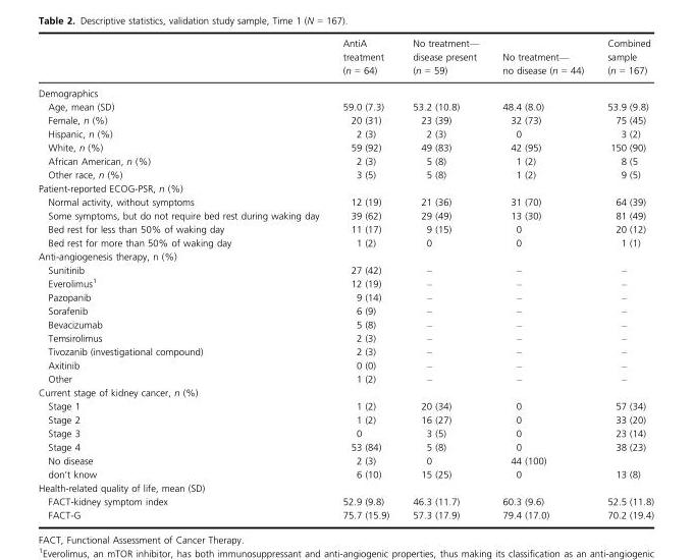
<table><thead><tr><td></td><td>AntiA treatment (n = 64)</td><td>No treatment— disease present (n = 59)</td><td>No treatment— no disease (n = 44)</td><td>Combined sample (n = 167)</td></tr></thead><tbody><tr><td colspan="5">Demographics</td></tr><tr><td>Age, mean (SD)</td><td>59.0 (7.3)</td><td>53.2 (10.8)</td><td>48.4 (8.0)</td><td>53.9 (9.8)</td></tr><tr><td>Female, n (%)</td><td>20 (31)</td><td>23 (39)</td><td>32 (73)</td><td>75 (45)</td></tr><tr><td>Hispanic, n (%)</td><td>2 (3)</td><td>2 (3)</td><td>0</td><td>3 (2)</td></tr><tr><td>White, n (%)</td><td>59 (92)</td><td>49 (83)</td><td>42 (95)</td><td>150 (90)</td></tr><tr><td>African American, n (%)</td><td>2 (3)</td><td>5 (8)</td><td>1 (2)</td><td>8 (5</td></tr><tr><td>Other race, n (%)</td><td>3 (5)</td><td>5 (8)</td><td>1 (2)</td><td>9 (5)</td></tr><tr><td colspan="5">Patient-reported ECOG-PSR, n (%)</td></tr><tr><td>Normal activity, without symptoms</td><td>12 (19)</td><td>21 (36)</td><td>31 (70)</td><td>64 (39)</td></tr><tr><td>Some symptoms, but do not require bed rest during waking day</td><td>39 (62)</td><td>29 (49)</td><td>13 (30)</td><td>81 (49)</td></tr><tr><td>Bed rest for less than 50% of waking day</td><td>11 (17)</td><td>9 (15)</td><td>0</td><td>20 (12)</td></tr><tr><td>Bed rest for more than 50% of waking day</td><td>1 (2)</td><td>0</td><td>0</td><td>1 (1)</td></tr><tr><td colspan="5">Anti-angiogenesis therapy, n (%)</td></tr><tr><td>Sunitinib</td><td>27 (42)</td><td>–</td><td>–</td><td>–</td></tr><tr><td>Everolimus<sup>1</sup></td><td>12 (19)</td><td>–</td><td>–</td><td>–</td></tr><tr><td>Pazopanib</td><td>9 (14)</td><td>–</td><td>–</td><td>–</td></tr><tr><td>Sorafenib</td><td>6 (9)</td><td>–</td><td>–</td><td>–</td></tr><tr><td>Bevacizumab</td><td>5 (8)</td><td>–</td><td>–</td><td>–</td></tr><tr><td>Temsirolimus</td><td>2 (3)</td><td>–</td><td>–</td><td>–</td></tr><tr><td>Tivozanib (investigational compound)</td><td>2 (3)</td><td>–</td><td>–</td><td>–</td></tr><tr><td>Axitinib</td><td>0 (0)</td><td>–</td><td>–</td><td>–</td></tr><tr><td>Other</td><td>1 (2)</td><td>–</td><td>–</td><td>–</td></tr><tr><td colspan="5">Current stage of kidney cancer, n (%)</td></tr><tr><td>Stage 1</td><td>1 (2)</td><td>20 (34)</td><td>0</td><td>57 (34)</td></tr><tr><td>Stage 2</td><td>1 (2)</td><td>16 (27)</td><td>0</td><td>33 (20)</td></tr><tr><td>Stage 3</td><td>0</td><td>3 (5)</td><td>0</td><td>23 (14)</td></tr><tr><td>Stage 4</td><td>53 (84)</td><td>5 (8)</td><td>0</td><td>38 (23)</td></tr><tr><td>No disease</td><td>2 (3)</td><td>0</td><td>44 (100)</td><td></td></tr><tr><td>don’t know</td><td>6 (10)</td><td>15 (25)</td><td>0</td><td>13 (8)</td></tr><tr><td colspan="5">Health-related quality of life, mean (SD)</td></tr><tr><td>FACT-kidney symptom index</td><td>52.9 (9.8)</td><td>46.3 (11.7)</td><td>60.3 (9.6)</td><td>52.5 (11.8)</td></tr><tr><td>FACT-G</td><td>75.7 (15.9)</td><td>57.3 (17.9)</td><td>79.4 (17.0)</td><td>70.2 (19.4)</td></tr></tbody></table>